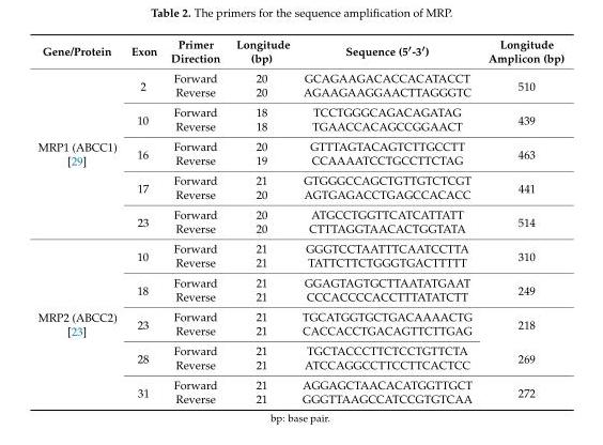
<table><thead><tr><td>Gene/Protein</td><td>Exon</td><td>Primer Direction</td><td>Longitude (bp)</td><td>Sequence (5′-3′)</td><td>Longitude Amplicon (bp)</td></tr></thead><tbody><tr><td rowspan="10">MRP1 (ABCC1) [29]</td><td rowspan="2">2</td><td>Forward</td><td>20</td><td>GCAGAAGACACCACATACCT</td><td rowspan="2">510</td></tr><tr><td>Reverse</td><td>20</td><td>AGAAGAAGGAACTTAGGGTC</td></tr><tr><td rowspan="2">10</td><td>Forward</td><td>18</td><td>TCCTGGGCAGACAGATAG</td><td rowspan="2">439</td></tr><tr><td>Reverse</td><td>18</td><td>TGAACCACAGCCGGAACT</td></tr><tr><td rowspan="2">16</td><td>Forward</td><td>20</td><td>GTTTAGTACAGTCTTGCCTT</td><td rowspan="2">463</td></tr><tr><td>Reverse</td><td>19</td><td>CCAAAATCCTGCCTTCTAG</td></tr><tr><td rowspan="2">17</td><td>Forward</td><td>21</td><td>GTGGGCCAGCTGTTGTCTCGT</td><td rowspan="2">441</td></tr><tr><td>Reverse</td><td>20</td><td>AGTGAGACCTGAGCCACACC</td></tr><tr><td rowspan="2">23</td><td>Forward</td><td>20</td><td>ATGCCTGGTTCATCATTATT</td><td rowspan="2">514</td></tr><tr><td>Reverse</td><td>20</td><td>CTTTAGGTAACACTGGTATA</td></tr><tr><td rowspan="10">MRP2 (ABCC2) [23]</td><td rowspan="2">10</td><td>Forward</td><td>21</td><td>GGGTCCTAATTTCAATCCTTA</td><td rowspan="2">310</td></tr><tr><td>Reverse</td><td>21</td><td>TATTCTTCTGGGTGACTTTTT</td></tr><tr><td rowspan="2">18</td><td>Forward</td><td>21</td><td>GGAGTAGTGCTTAATATGAAT</td><td rowspan="2">249</td></tr><tr><td>Reverse</td><td>21</td><td>CCCACCCCACCTTTATATCTT</td></tr><tr><td rowspan="2">23</td><td>Forward</td><td>21</td><td>TGCATGGTGCTGACAAAACTG</td><td rowspan="2">218</td></tr><tr><td>Reverse</td><td>21</td><td>CACCACCTGACAGTTCTTGAG</td></tr><tr><td rowspan="2">28</td><td>Forward</td><td>21</td><td>TGCTACCCTTCTCCTGTTCTA</td><td rowspan="2">269</td></tr><tr><td>Reverse</td><td>21</td><td>ATCCAGGCCTTCCTTCACTCC</td></tr><tr><td rowspan="2">31</td><td>Forward</td><td>21</td><td>AGGAGCTAACACATGGTTGCT</td><td rowspan="2">272</td></tr><tr><td>Reverse</td><td>21</td><td>GGGTTAAGCCATCCGTGTCAA</td></tr></tbody></table>